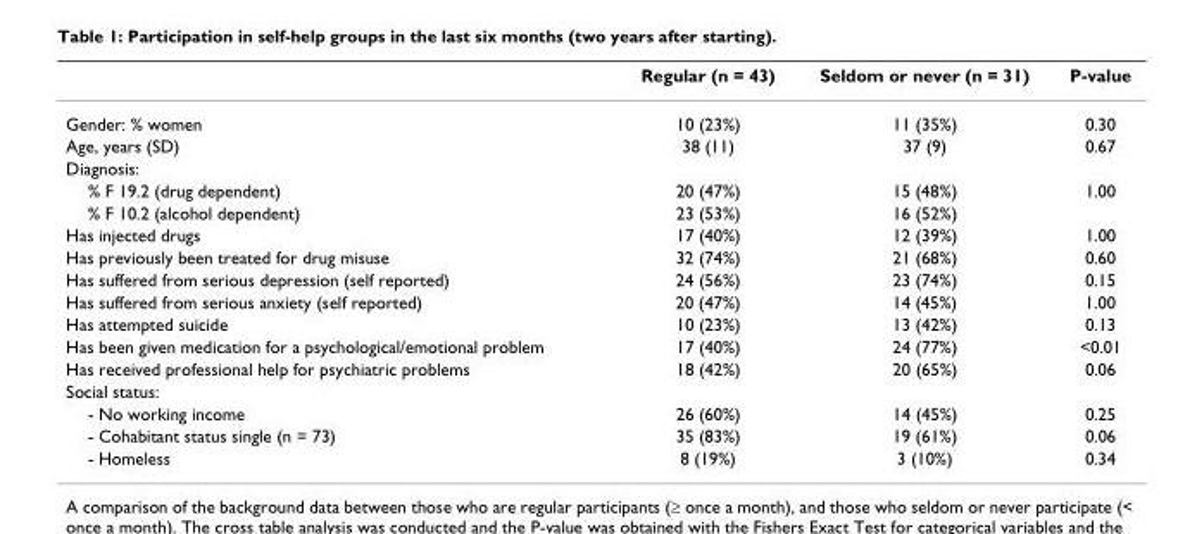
<table><thead><tr><td></td><td>Regular (n = 43)</td><td>Seldom or never (n = 31)</td><td>P-value</td></tr></thead><tbody><tr><td>Gender: % women</td><td>10 (23%)</td><td>11 (35%)</td><td>0.30</td></tr><tr><td>Age, years (SD)</td><td>38 (11)</td><td>37 (9)</td><td>0.67</td></tr><tr><td colspan="4">Diagnosis:</td></tr><tr><td>% F 19.2 (drug dependent)</td><td>20 (47%)</td><td>15 (48%)</td><td>1.00</td></tr><tr><td>% F 10.2 (alcohol dependent)</td><td>23 (53%)</td><td>16 (52%)</td><td></td></tr><tr><td>Has injected drugs</td><td>17 (40%)</td><td>12 (39%)</td><td>1.00</td></tr><tr><td>Has previously been treated for drug misuse</td><td>32 (74%)</td><td>21 (68%)</td><td>0.60</td></tr><tr><td>Has suffered from serious depression (self reported)</td><td>24 (56%)</td><td>23 (74%)</td><td>0.15</td></tr><tr><td>Has suffered from serious anxiety (self reported)</td><td>20 (47%)</td><td>14 (45%)</td><td>1.00</td></tr><tr><td>Has attempted suicide</td><td>10 (23%)</td><td>13 (42%)</td><td>0.13</td></tr><tr><td>Has been given medication for a psychological/emotional problem</td><td>17 (40%)</td><td>24 (77%)</td><td>&lt;0.01</td></tr><tr><td>Has received professional help for psychiatric problems</td><td>18 (42%)</td><td>20 (65%)</td><td>0.06</td></tr><tr><td colspan="4">Social status:</td></tr><tr><td>- No working income</td><td>26 (60%)</td><td>14 (45%)</td><td>0.25</td></tr><tr><td>- Cohabitant status single (n = 73)</td><td>35 (83%)</td><td>19 (61%)</td><td>0.06</td></tr><tr><td>- Homeless</td><td>8 (19%)</td><td>3 (10%)</td><td>0.34</td></tr></tbody></table>